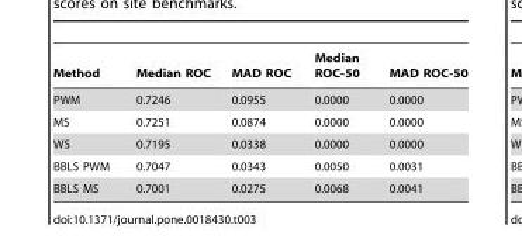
<table><thead><tr><td>Method</td><td>Median ROC</td><td>MAD ROC</td><td>Median ROC-50</td><td>MAD ROC-50</td></tr></thead><tbody><tr><td>PWM</td><td>0.7246</td><td>0.0955</td><td>0.0000</td><td>0.0000</td></tr><tr><td>MS</td><td>0.7251</td><td>0.0874</td><td>0.0000</td><td>0.0000</td></tr><tr><td>WS</td><td>0.7195</td><td>0.0338</td><td>0.0000</td><td>0.0000</td></tr><tr><td>BBLS PWM</td><td>0.7047</td><td>0.0343</td><td>0.0050</td><td>0.0031</td></tr><tr><td>BBLS MS</td><td>0.7001</td><td>0.0275</td><td>0.0068</td><td>0.0041</td></tr></tbody></table>